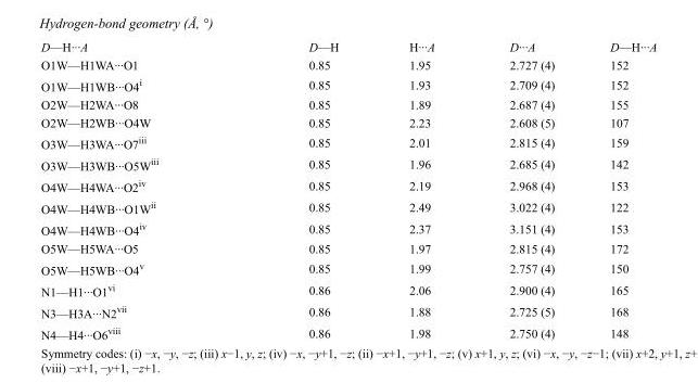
<table><tbody><tr><td>D—H···A</td><td>D—H</td><td>H···A</td><td>D···A</td><td>D—H···A</td></tr><tr><td>O1W—H1WA···O1</td><td>0.85</td><td>1.95</td><td>2.727 (4)</td><td>152</td></tr><tr><td>O1W—H1WB···O4<sup>i</sup></td><td>0.85</td><td>1.93</td><td>2.709 (4)</td><td>152</td></tr><tr><td>O2W—H2WA···O8</td><td>0.85</td><td>1.89</td><td>2.687 (4)</td><td>155</td></tr><tr><td>O2W—H2WB···O4W</td><td>0.85</td><td>2.23</td><td>2.608 (5)</td><td>107</td></tr><tr><td>O3W—H3WA···O7<sup>iii</sup></td><td>0.85</td><td>2.01</td><td>2.815 (4)</td><td>159</td></tr><tr><td>O3W—H3WB···O5W<sup>iii</sup></td><td>0.85</td><td>1.96</td><td>2.685 (4)</td><td>142</td></tr><tr><td>O4W—H4WA···O2<sup>iv</sup></td><td>0.85</td><td>2.19</td><td>2.968 (4)</td><td>153</td></tr><tr><td>O4W—H4WB···O1W<sup>ii</sup></td><td>0.85</td><td>2.49</td><td>3.022 (4)</td><td>122</td></tr><tr><td>O4W—H4WB···O4<sup>iv</sup></td><td>0.85</td><td>2.37</td><td>3.151 (4)</td><td>153</td></tr><tr><td>O5W—H5WA···O5</td><td>0.85</td><td>1.97</td><td>2.815 (4)</td><td>172</td></tr><tr><td>O5W—H5WB···O4<sup>v</sup></td><td>0.85</td><td>1.99</td><td>2.757 (4)</td><td>150</td></tr><tr><td>N1—H1···O1<sup>vi</sup></td><td>0.86</td><td>2.06</td><td>2.900 (4)</td><td>165</td></tr><tr><td>N3—H3A···N2<sup>vii</sup></td><td>0.86</td><td>1.88</td><td>2.725 (5)</td><td>168</td></tr><tr><td>N4—H4···O6<sup>viii</sup></td><td>0.86</td><td>1.98</td><td>2.750 (4)</td><td>148</td></tr></tbody></table>